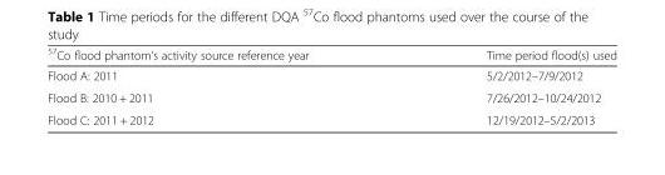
<table><thead><tr><td><sup>57</sup>Co flood phantom’s activity source reference year</td><td>Time period flood(s) used</td></tr></thead><tbody><tr><td>Flood A: 2011</td><td>5/2/2012–7/9/2012</td></tr><tr><td>Flood B: 2010 + 2011</td><td>7/26/2012–10/24/2012</td></tr><tr><td>Flood C: 2011 + 2012</td><td>12/19/2012–5/2/2013</td></tr></tbody></table>